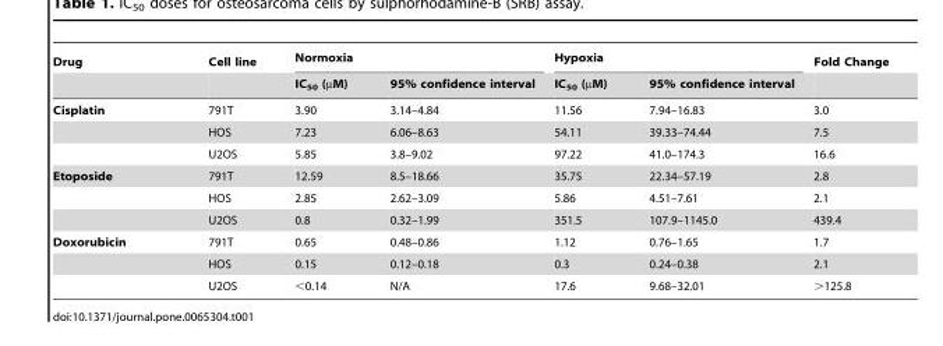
<table><thead><tr><td rowspan="2">Drug</td><td rowspan="2">Cell line</td><td colspan="2">Normoxia</td><td colspan="2">Hypoxia</td><td rowspan="2">Fold Change</td></tr><tr><td>IC<sub>50</sub> (µM)</td><td>95% confidence interval</td><td>IC<sub>50</sub> (µM)</td><td>95% confidence interval</td></tr></thead><tbody><tr><td rowspan="3">Cisplatin</td><td>791T</td><td>3.90</td><td>3.14–4.84</td><td>11.56</td><td>7.94–16.83</td><td>3.0</td></tr><tr><td>HOS</td><td>7.23</td><td>6.06–8.63</td><td>54.11</td><td>39.33–74.44</td><td>7.5</td></tr><tr><td>U2OS</td><td>5.85</td><td>3.8–9.02</td><td>97.22</td><td>41.0–174.3</td><td>16.6</td></tr><tr><td rowspan="3">Etoposide</td><td>791T</td><td>12.59</td><td>8.5–18.66</td><td>35.75</td><td>22.34–57.19</td><td>2.8</td></tr><tr><td>HOS</td><td>2.85</td><td>2.62–3.09</td><td>5.86</td><td>4.51–7.61</td><td>2.1</td></tr><tr><td>U2OS</td><td>0.8</td><td>0.32–1.99</td><td>351.5</td><td>107.9–1145.0</td><td>439.4</td></tr><tr><td rowspan="3">Doxorubicin</td><td>791T</td><td>0.65</td><td>0.48–0.86</td><td>1.12</td><td>0.76–1.65</td><td>1.7</td></tr><tr><td>HOS</td><td>0.15</td><td>0.12–0.18</td><td>0.3</td><td>0.24–0.38</td><td>2.1</td></tr><tr><td>U2OS</td><td>&lt;0.14</td><td>N/A</td><td>17.6</td><td>9.68–32.01</td><td>&gt;125.8</td></tr></tbody></table>